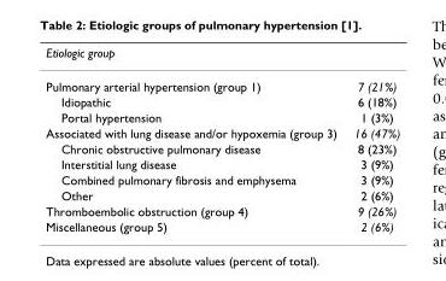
<table><thead><tr><td>Etiologic group</td><td></td></tr></thead><tbody><tr><td>Pulmonary arterial hypertension (group 1)</td><td>7 (21%)</td></tr><tr><td>Idiopathic</td><td>6 (18%)</td></tr><tr><td>Portal hypertension</td><td>1 (3%)</td></tr><tr><td>Associated with lung disease and/or hypoxemia (group 3)</td><td>16 (47%)</td></tr><tr><td>Chronic obstructive pulmonary disease</td><td>8 (23%)</td></tr><tr><td>Interstitial lung disease</td><td>3 (9%)</td></tr><tr><td>Combined pulmonary fibrosis and emphysema</td><td>3 (9%)</td></tr><tr><td>Other</td><td>2 (6%)</td></tr><tr><td>Thromboembolic obstruction (group 4)</td><td>9 (26%)</td></tr><tr><td>Miscellaneous (group 5)</td><td>2 (6%)</td></tr></tbody></table>